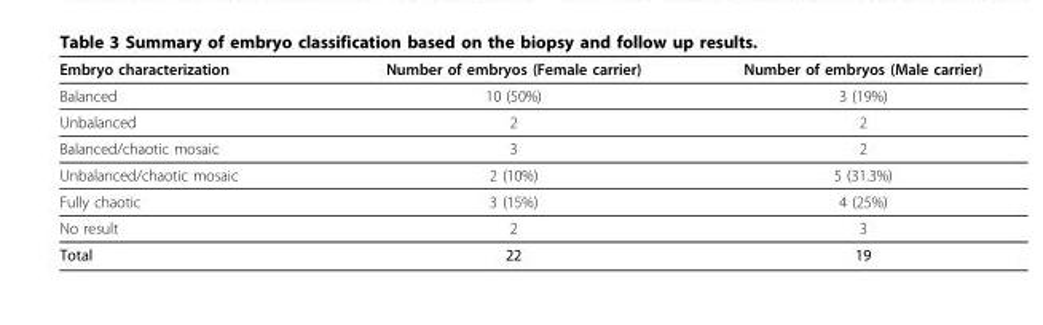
<table><thead><tr><td>Embryo characterization</td><td>Number of embryos (Female carrier)</td><td>Number of embryos (Male carrier)</td></tr></thead><tbody><tr><td>Balanced</td><td>10 (50%)</td><td>3 (19%)</td></tr><tr><td>Unbalanced</td><td>2</td><td>2</td></tr><tr><td>Balanced/chaotic mosaic</td><td>3</td><td>2</td></tr><tr><td>Unbalanced/chaotic mosaic</td><td>2 (10%)</td><td>5 (31.3%)</td></tr><tr><td>Fully chaotic</td><td>3 (15%)</td><td>4 (25%)</td></tr><tr><td>No result</td><td>2</td><td>3</td></tr><tr><td>Total</td><td>22</td><td>19</td></tr></tbody></table>